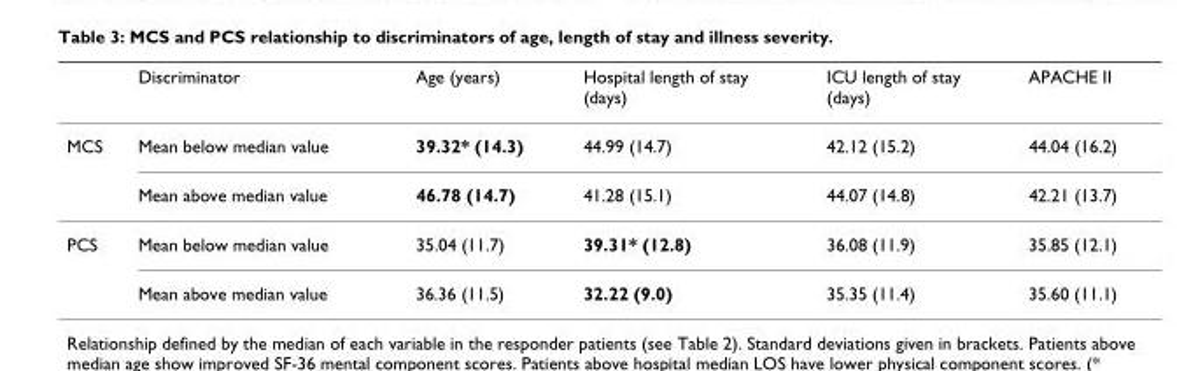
<table><thead><tr><td></td><td>Discriminator</td><td>Age (years)</td><td>Hospital length of stay (days)</td><td>ICU length of stay (days)</td><td>APACHE II</td></tr></thead><tbody><tr><td rowspan="2">MCS</td><td>Mean below median value</td><td>39.32* (14.3)</td><td>44.99 (14.7)</td><td>42.12 (15.2)</td><td>44.04 (16.2)</td></tr><tr><td>Mean above median value</td><td>46.78 (14.7)</td><td>41.28 (15.1)</td><td>44.07 (14.8)</td><td>42.21 (13.7)</td></tr><tr><td rowspan="2">PCS</td><td>Mean below median value</td><td>35.04 (11.7)</td><td>39.31* (12.8)</td><td>36.08 (11.9)</td><td>35.85 (12.1)</td></tr><tr><td>Mean above median value</td><td>36.36 (11.5)</td><td>32.22 (9.0)</td><td>35.35 (11.4)</td><td>35.60 (11.1)</td></tr></tbody></table>